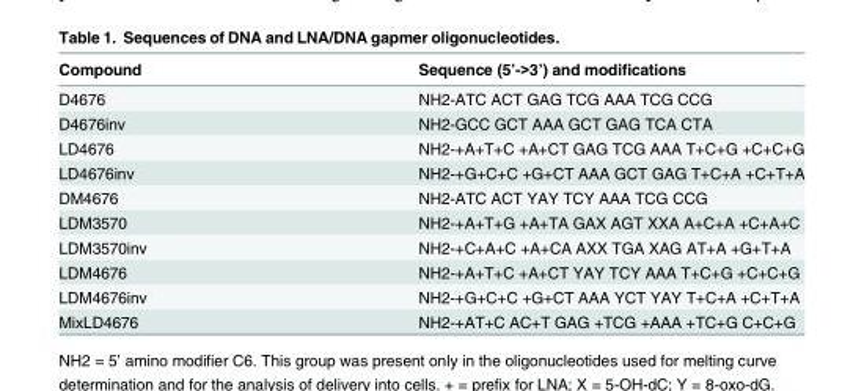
<table><thead><tr><td>Compound</td><td>Sequence (5’-&gt;3’) and modifications</td></tr></thead><tbody><tr><td>D4676</td><td>NH2-ATC ACT GAG TCG AAA TCG CCG</td></tr><tr><td>D4676inv</td><td>NH2-GCC GCT AAA GCT GAG TCA CTA</td></tr><tr><td>LD4676</td><td>NH2-+A+T+C +A+CT GAG TCG AAA T+C+G +C+C+G</td></tr><tr><td>LD4676inv</td><td>NH2-+G+C+C +G+CT AAA GCT GAG T+C+A +C+T+A</td></tr><tr><td>DM4676</td><td>NH2-ATC ACT YAY TCY AAA TCG CCG</td></tr><tr><td>LDM3570</td><td>NH2-+A+T+G +A+TA GAX AGT XXA A+C+A +C+A+C</td></tr><tr><td>LDM3570inv</td><td>NH2-+C+A+C +A+CA AXX TGA XAG AT+A +G+T+A</td></tr><tr><td>LDM4676</td><td>NH2-+A+T+C +A+CT YAY TCY AAA T+C+G +C+C+G</td></tr><tr><td>LDM4676inv</td><td>NH2-+G+C+C +G+CT AAA YCT YAY T+C+A +C+T+A</td></tr><tr><td>MixLD4676</td><td>NH2-+AT+C AC+T GAG +TCG +AAA +TC+G C+C+G</td></tr></tbody></table>